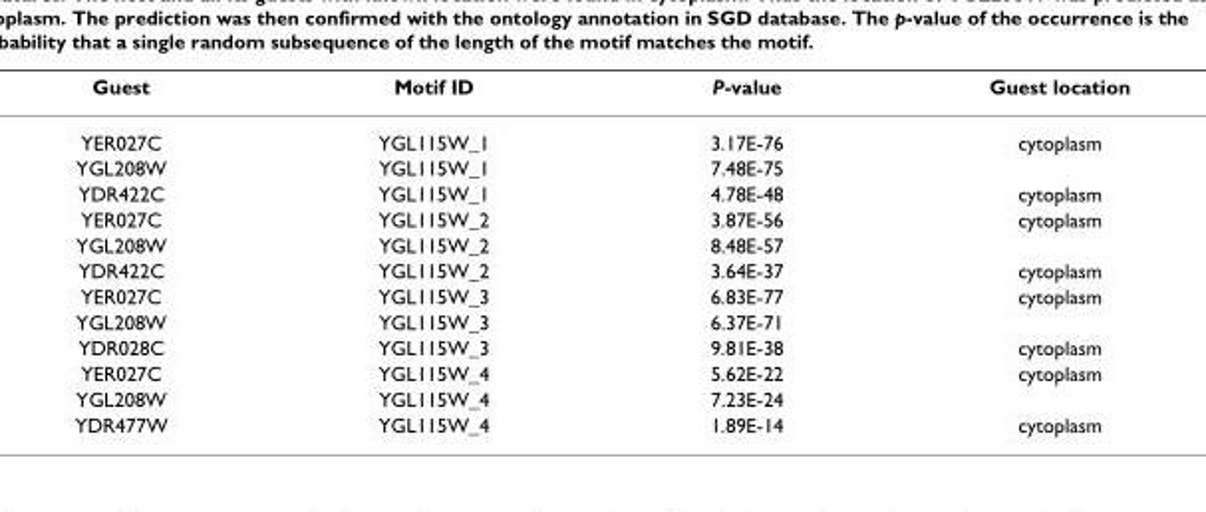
<table><thead><tr><td>Guest</td><td>Motif ID</td><td>P-value</td><td>Guest location</td></tr></thead><tbody><tr><td>YER027C</td><td>YGL115W_1</td><td>3.17E-76</td><td>cytoplasm</td></tr><tr><td>YGL208W</td><td>YGL115W_1</td><td>7.48E-75</td><td></td></tr><tr><td>YDR422C</td><td>YGL115W_1</td><td>4.78E-48</td><td>cytoplasm</td></tr><tr><td>YER027C</td><td>YGL115W_2</td><td>3.87E-56</td><td>cytoplasm</td></tr><tr><td>YGL208W</td><td>YGL115W_2</td><td>8.48E-57</td><td></td></tr><tr><td>YDR422C</td><td>YGL115W_2</td><td>3.64E-37</td><td>cytoplasm</td></tr><tr><td>YER027C</td><td>YGL115W_3</td><td>6.83E-77</td><td>cytoplasm</td></tr><tr><td>YGL208W</td><td>YGL115W_3</td><td>6.37E-71</td><td></td></tr><tr><td>YDR028C</td><td>YGL115W_3</td><td>9.81E-38</td><td>cytoplasm</td></tr><tr><td>YER027C</td><td>YGL115W_4</td><td>5.62E-22</td><td>cytoplasm</td></tr><tr><td>YGL208W</td><td>YGL115W_4</td><td>7.23E-24</td><td></td></tr><tr><td>YDR477W</td><td>YGL115W_4</td><td>1.89E-14</td><td>cytoplasm</td></tr></tbody></table>